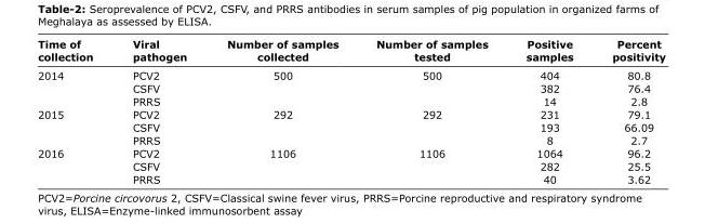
<table><thead><tr><td>Time of collection</td><td>Viral pathogen</td><td>Number of samples collected</td><td>Number of samples tested</td><td>Positive samples</td><td>Percent positivity</td></tr></thead><tbody><tr><td rowspan="3">2014</td><td>PCV2</td><td>500</td><td>500</td><td>404</td><td>80.8</td></tr><tr><td>CSFV</td><td></td><td></td><td>382</td><td>76.4</td></tr><tr><td>PRRS</td><td></td><td></td><td>14</td><td>2.8</td></tr><tr><td rowspan="3">2015</td><td>PCV2</td><td>292</td><td>292</td><td>231</td><td>79.1</td></tr><tr><td>CSFV</td><td></td><td></td><td>193</td><td>66.09</td></tr><tr><td>PRRS</td><td></td><td></td><td>8</td><td>2.7</td></tr><tr><td rowspan="3">2016</td><td>PCV2</td><td>1106</td><td>1106</td><td>1064</td><td>96.2</td></tr><tr><td>CSFV</td><td></td><td></td><td>282</td><td>25.5</td></tr><tr><td>PRRS</td><td></td><td></td><td>40</td><td>3.62</td></tr></tbody></table>